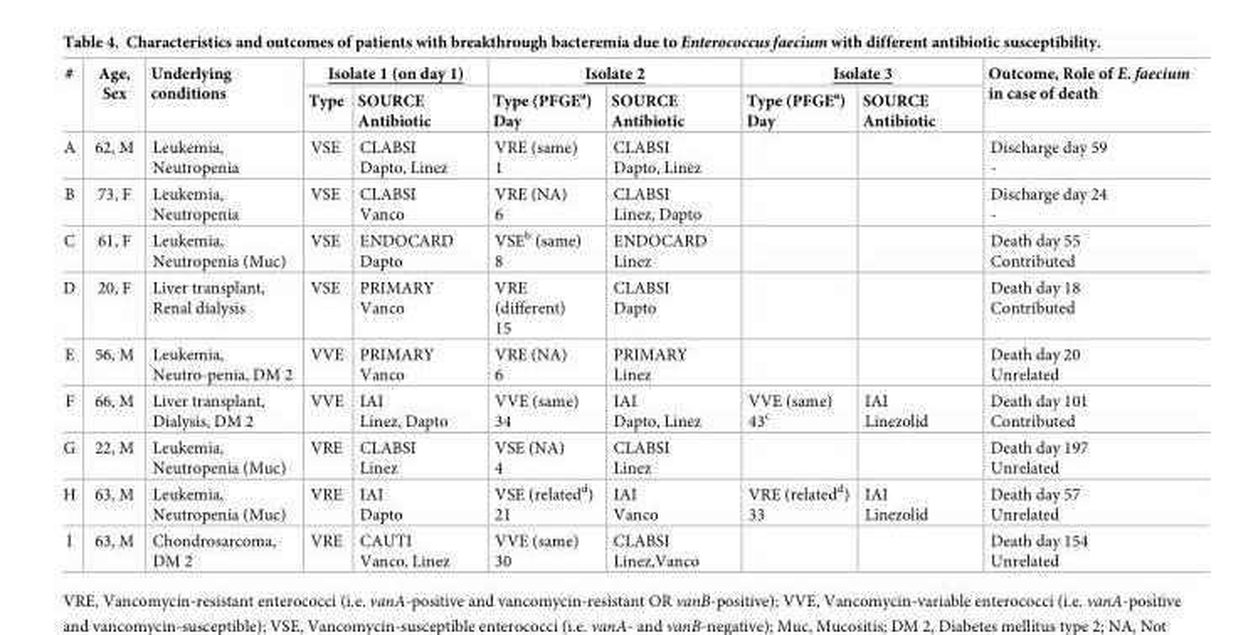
<table><thead><tr><td rowspan="2">#</td><td rowspan="2">Age, Sex</td><td rowspan="2">Underlying conditions</td><td colspan="2">Isolate 1 (on day 1)</td><td colspan="2">Isolate 2</td><td colspan="2">Isolate 3</td><td rowspan="2">Outcome, Role of E. faecium in case of death</td></tr><tr><td>Type</td><td>SOURCE Antibiotic</td><td>Type (PFGE<sup>a</sup>) Day</td><td>SOURCE Antibiotic</td><td>Type (PFGE<sup>a</sup>) Day</td><td>SOURCE Antibiotic</td></tr></thead><tbody><tr><td>A</td><td>62, M</td><td>Leukemia, Neutropenia</td><td>VSE</td><td>CLABSI Dapto, Linez</td><td>VRE (same) 1</td><td>CLABSI Dapto, Linez</td><td></td><td></td><td>Discharge day 59 -</td></tr><tr><td>B</td><td>73, F</td><td>Leukemia, Neutropenia</td><td>VSE</td><td>CLABSI Vanco</td><td>VRE (NA) 6</td><td>CLABSI Linez, Dapto</td><td></td><td></td><td>Discharge day 24 -</td></tr><tr><td>C</td><td>61, F</td><td>Leukemia, Neutropenia (Muc)</td><td>VSE</td><td>ENDOCARD Dapto</td><td>VSE<sup>b</sup> (same) 8</td><td>ENDOCARD Linez</td><td></td><td></td><td>Death day 55 Contributed</td></tr><tr><td>D</td><td>20, F</td><td>Liver transplant, Renal dialysis</td><td>VSE</td><td>PRIMARY Vanco</td><td>VRE (different) 15</td><td>CLABSI Dapto</td><td></td><td></td><td>Death day 18 Contributed</td></tr><tr><td>E</td><td>56, M</td><td>Leukemia, Neutro-penia, DM 2</td><td>VVE</td><td>PRIMARY Vanco</td><td>VRE (NA) 6</td><td>PRIMARY Linez</td><td></td><td></td><td>Death day 20 Unrelated</td></tr><tr><td>F</td><td>66, M</td><td>Liver transplant, Dialysis, DM 2</td><td>VVE</td><td>IAI Linez, Dapto</td><td>VVE (same) 34</td><td>IAI Dapto, Linez</td><td>VVE (same) 43<sup>c</sup></td><td>IAI Linezolid</td><td>Death day 101 Contributed</td></tr><tr><td>G</td><td>22, M</td><td>Leukemia, Neutropenia (Muc)</td><td>VRE</td><td>CLABSI Linez</td><td>VSE (NA) 4</td><td>CLABSI Linez</td><td></td><td></td><td>Death day 197 Unrelated</td></tr><tr><td>H</td><td>63, M</td><td>Leukemia, Neutropenia (Muc)</td><td>VRE</td><td>IAI Dapto</td><td>VSE (related<sup>d</sup>) 21</td><td>IAI Vanco</td><td>VRE (related<sup>d</sup>) 33</td><td>IAI Linezolid</td><td>Death day 57 Unrelated</td></tr><tr><td>I</td><td>63, M</td><td>Chondrosarcoma, DM 2</td><td>VRE</td><td>CAUTI Vanco, Linez</td><td>VVE (same) 30</td><td>CLABSI Linez,Vanco</td><td></td><td></td><td>Death day 154 Unrelated</td></tr></tbody></table>